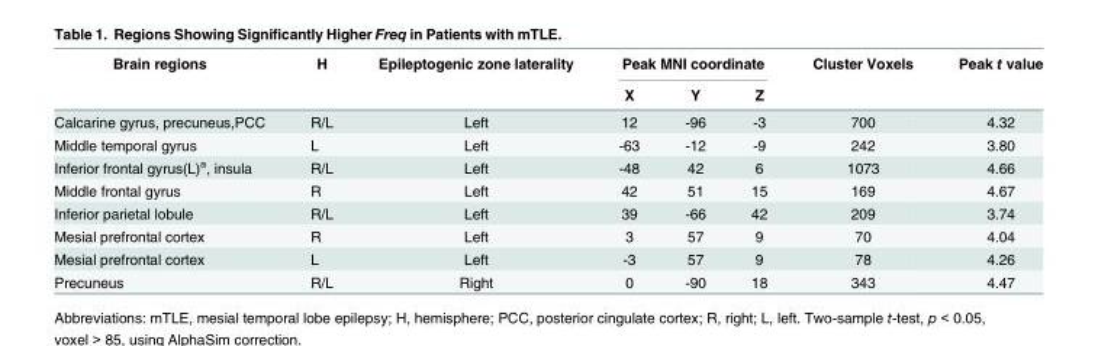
<table><thead><tr><td rowspan="2">Brain regions</td><td rowspan="2">H</td><td rowspan="2">Epileptogenic zone laterality</td><td colspan="3">Peak MNI coordinate</td><td rowspan="2">Cluster Voxels</td><td rowspan="2">Peak t value</td></tr><tr><td>X</td><td>Y</td><td>Z</td></tr></thead><tbody><tr><td>Calcarine gyrus, precuneus,PCC</td><td>R/L</td><td>Left</td><td>12</td><td>-96</td><td>-3</td><td>700</td><td>4.32</td></tr><tr><td>Middle temporal gyrus</td><td>L</td><td>Left</td><td>-63</td><td>-12</td><td>-9</td><td>242</td><td>3.80</td></tr><tr><td>Inferior frontal gyrus(L)<sup>a</sup>, insula</td><td>R/L</td><td>Left</td><td>-48</td><td>42</td><td>6</td><td>1073</td><td>4.66</td></tr><tr><td>Middle frontal gyrus</td><td>R</td><td>Left</td><td>42</td><td>51</td><td>15</td><td>169</td><td>4.67</td></tr><tr><td>Inferior parietal lobule</td><td>R/L</td><td>Left</td><td>39</td><td>-66</td><td>42</td><td>209</td><td>3.74</td></tr><tr><td>Mesial prefrontal cortex</td><td>R</td><td>Left</td><td>3</td><td>57</td><td>9</td><td>70</td><td>4.04</td></tr><tr><td>Mesial prefrontal cortex</td><td>L</td><td>Left</td><td>-3</td><td>57</td><td>9</td><td>78</td><td>4.26</td></tr><tr><td>Precuneus</td><td>R/L</td><td>Right</td><td>0</td><td>-90</td><td>18</td><td>343</td><td>4.47</td></tr></tbody></table>